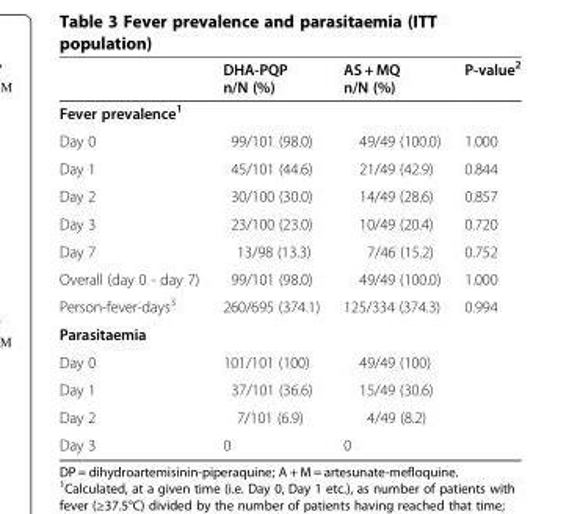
<table><thead><tr><td></td><td>DHA-PQP n/N (%)</td><td>AS + MQ n/N (%)</td><td>P-value<sup>2</sup></td></tr></thead><tbody><tr><td colspan="4">Fever prevalence<sup>1</sup></td></tr><tr><td>Day 0</td><td>99/101 (98.0)</td><td>49/49 (100.0)</td><td>1.000</td></tr><tr><td>Day 1</td><td>45/101 (44.6)</td><td>21/49 (42.9)</td><td>0.844</td></tr><tr><td>Day 2</td><td>30/100 (30.0)</td><td>14/49 (28.6)</td><td>0.857</td></tr><tr><td>Day 3</td><td>23/100 (23.0)</td><td>10/49 (20.4)</td><td>0.720</td></tr><tr><td>Day 7</td><td>13/98 (13.3)</td><td>7/46 (15.2)</td><td>0.752</td></tr><tr><td>Overall (day 0 - day 7)</td><td>99/101 (98.0)</td><td>49/49 (100.0)</td><td>1.000</td></tr><tr><td>Person-fever-days<sup>3</sup></td><td>260/695 (374.1)</td><td>125/334 (374.3)</td><td>0.994</td></tr><tr><td colspan="4">Parasitaemia</td></tr><tr><td>Day 0</td><td>101/101 (100)</td><td>49/49 (100)</td><td></td></tr><tr><td>Day 1</td><td>37/101 (36.6)</td><td>15/49 (30.6)</td><td></td></tr><tr><td>Day 2</td><td>7/101 (6.9)</td><td>4/49 (8.2)</td><td></td></tr><tr><td>Day 3</td><td>0</td><td>0</td><td></td></tr></tbody></table>